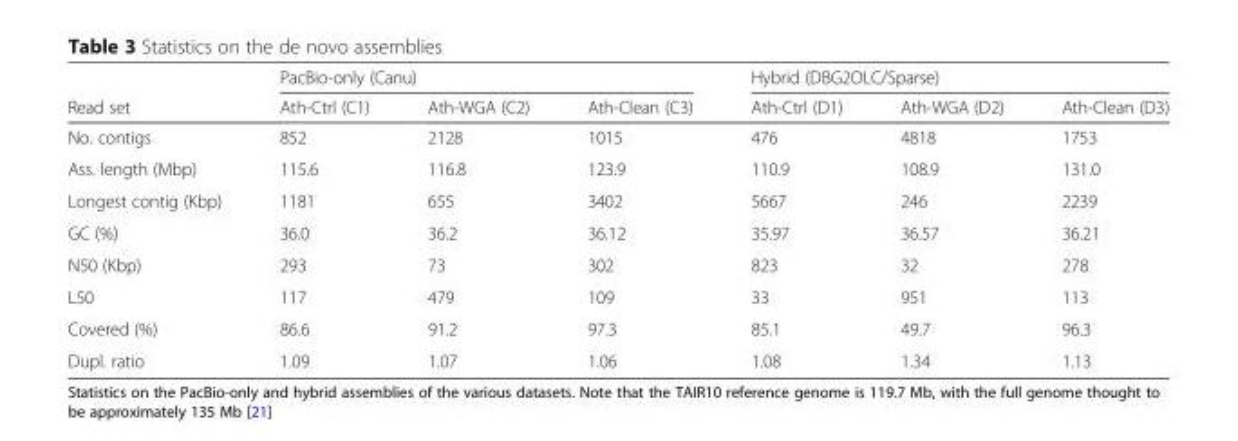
<table><thead><tr><td rowspan="2">Read set</td><td colspan="3">PacBio-only (Canu)</td><td colspan="3">Hybrid (DBG2OLC/Sparse)</td></tr><tr><td>Ath-Ctrl (C1)</td><td>Ath-WGA (C2)</td><td>Ath-Clean (C3)</td><td>Ath-Ctrl (D1)</td><td>Ath-WGA (D2)</td><td>Ath-Clean (D3)</td></tr></thead><tbody><tr><td>No. contigs</td><td>852</td><td>2128</td><td>1015</td><td>476</td><td>4818</td><td>1753</td></tr><tr><td>Ass. length (Mbp)</td><td>115.6</td><td>116.8</td><td>123.9</td><td>110.9</td><td>108.9</td><td>131.0</td></tr><tr><td>Longest contig (Kbp)</td><td>1181</td><td>655</td><td>3402</td><td>5667</td><td>246</td><td>2239</td></tr><tr><td>GC (%)</td><td>36.0</td><td>36.2</td><td>36.12</td><td>35.97</td><td>36.57</td><td>36.21</td></tr><tr><td>N50 (Kbp)</td><td>293</td><td>73</td><td>302</td><td>823</td><td>32</td><td>278</td></tr><tr><td>L50</td><td>117</td><td>479</td><td>109</td><td>33</td><td>951</td><td>113</td></tr><tr><td>Covered (%)</td><td>86.6</td><td>91.2</td><td>97.3</td><td>85.1</td><td>49.7</td><td>96.3</td></tr><tr><td>Dupl. ratio</td><td>1.09</td><td>1.07</td><td>1.06</td><td>1.08</td><td>1.34</td><td>1.13</td></tr></tbody></table>